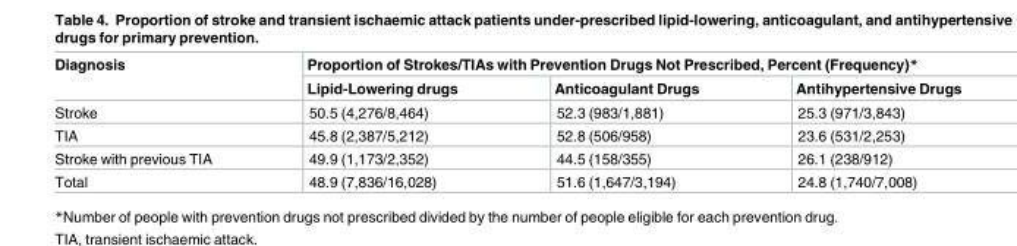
<table><thead><tr><td rowspan="2">Diagnosis</td><td colspan="3">Proportion of Strokes/TIAs with Prevention Drugs Not Prescribed, Percent (Frequency)*</td></tr><tr><td>Lipid-Lowering drugs</td><td>Anticoagulant Drugs</td><td>Antihypertensive Drugs</td></tr></thead><tbody><tr><td>Stroke</td><td>50.5 (4,276/8,464)</td><td>52.3 (983/1,881)</td><td>25.3 (971/3,843)</td></tr><tr><td>TIA</td><td>45.8 (2,387/5,212)</td><td>52.8 (506/958)</td><td>23.6 (531/2,253)</td></tr><tr><td>Stroke with previous TIA</td><td>49.9 (1,173/2,352)</td><td>44.5 (158/355)</td><td>26.1 (238/912)</td></tr><tr><td>Total</td><td>48.9 (7,836/16,028)</td><td>51.6 (1,647/3,194)</td><td>24.8 (1,740/7,008)</td></tr></tbody></table>